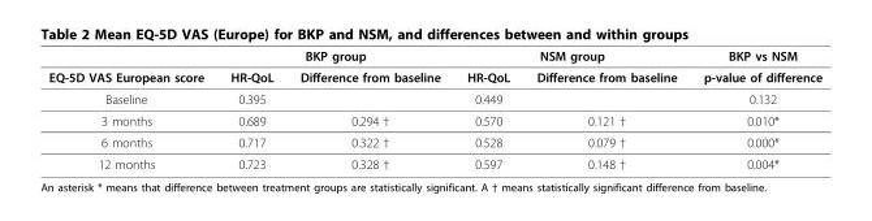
<table><thead><tr><td rowspan="2">EQ-5D VAS European score</td><td colspan="2">BKP group</td><td colspan="2">NSM group</td><td rowspan="2">BKP vs NSM p-value of difference</td></tr><tr><td>HR-QoL</td><td>Difference from baseline</td><td>HR-QoL</td><td>Difference from baseline</td></tr></thead><tbody><tr><td>Baseline</td><td>0.395</td><td></td><td>0.449</td><td></td><td>0.132</td></tr><tr><td>3 months</td><td>0.689</td><td>0.294 †</td><td>0.570</td><td>0.121 †</td><td>0.010*</td></tr><tr><td>6 months</td><td>0.717</td><td>0.322 †</td><td>0.528</td><td>0.079 †</td><td>0.000*</td></tr><tr><td>12 months</td><td>0.723</td><td>0.328 †</td><td>0.597</td><td>0.148 †</td><td>0.004*</td></tr></tbody></table>